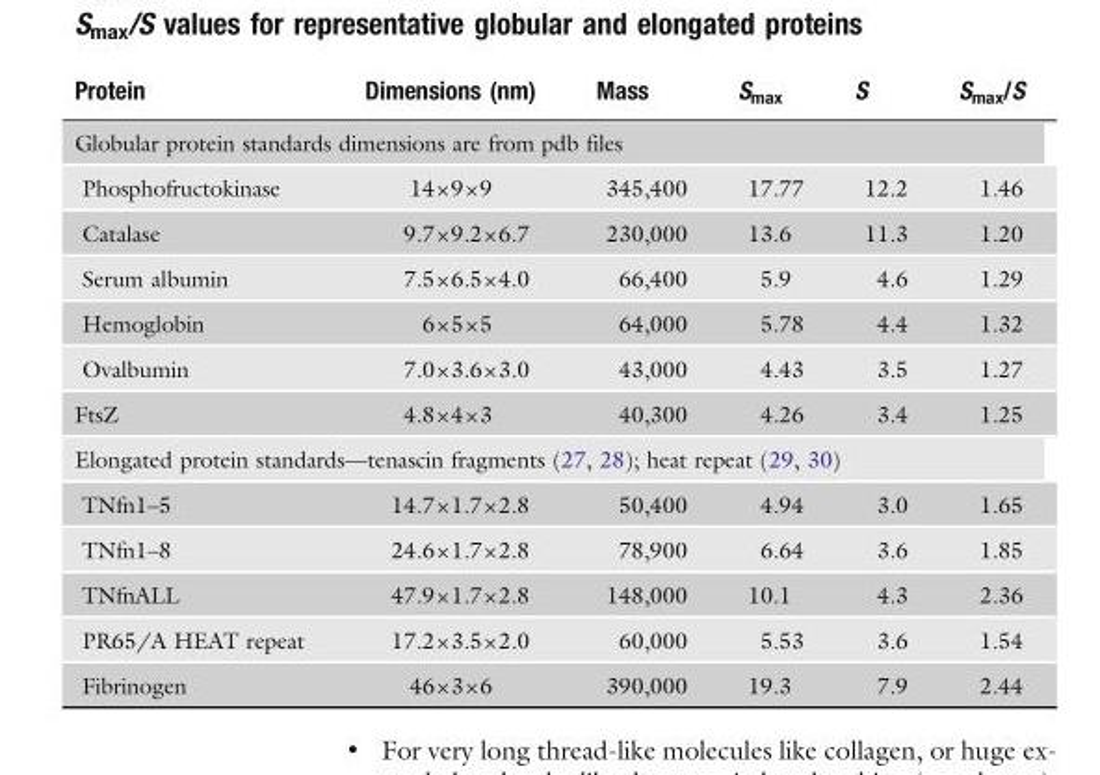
<table><thead><tr><td>Protein</td><td>Dimensions (nm)</td><td>Mass</td><td>S<sub>max</sub></td><td>S</td><td>S<sub>max</sub>/S</td></tr></thead><tbody><tr><td colspan="6">Globular protein standards dimensions are from pdb files</td></tr><tr><td>Phosphofructokinase</td><td>14×9×9</td><td>345,400</td><td>17.77</td><td>12.2</td><td>1.46</td></tr><tr><td>Catalase</td><td>9.7×9.2×6.7</td><td>230,000</td><td>13.6</td><td>11.3</td><td>1.20</td></tr><tr><td>Serum albumin</td><td>7.5×6.5×4.0</td><td>66,400</td><td>5.9</td><td>4.6</td><td>1.29</td></tr><tr><td>Hemoglobin</td><td>6×5×5</td><td>64,000</td><td>5.78</td><td>4.4</td><td>1.32</td></tr><tr><td>Ovalbumin</td><td>7.0×3.6×3.0</td><td>43,000</td><td>4.43</td><td>3.5</td><td>1.27</td></tr><tr><td>FtsZ</td><td>4.8×4×3</td><td>40,300</td><td>4.26</td><td>3.4</td><td>1.25</td></tr><tr><td colspan="6">Elongated protein standards—tenascin fragments (27, 28); heat repeat (29, 30)</td></tr><tr><td>TNfn1–5</td><td>14.7×1.7×2.8</td><td>50,400</td><td>4.94</td><td>3.0</td><td>1.65</td></tr><tr><td>TNfn1–8</td><td>24.6×1.7×2.8</td><td>78,900</td><td>6.64</td><td>3.6</td><td>1.85</td></tr><tr><td>TNfnALL</td><td>47.9×1.7×2.8</td><td>148,000</td><td>10.1</td><td>4.3</td><td>2.36</td></tr><tr><td>PR65/A HEAT repeat</td><td>17.2×3.5×2.0</td><td>60,000</td><td>5.53</td><td>3.6</td><td>1.54</td></tr><tr><td>Fibrinogen</td><td>46×3×6</td><td>390,000</td><td>19.3</td><td>7.9</td><td>2.44</td></tr></tbody></table>